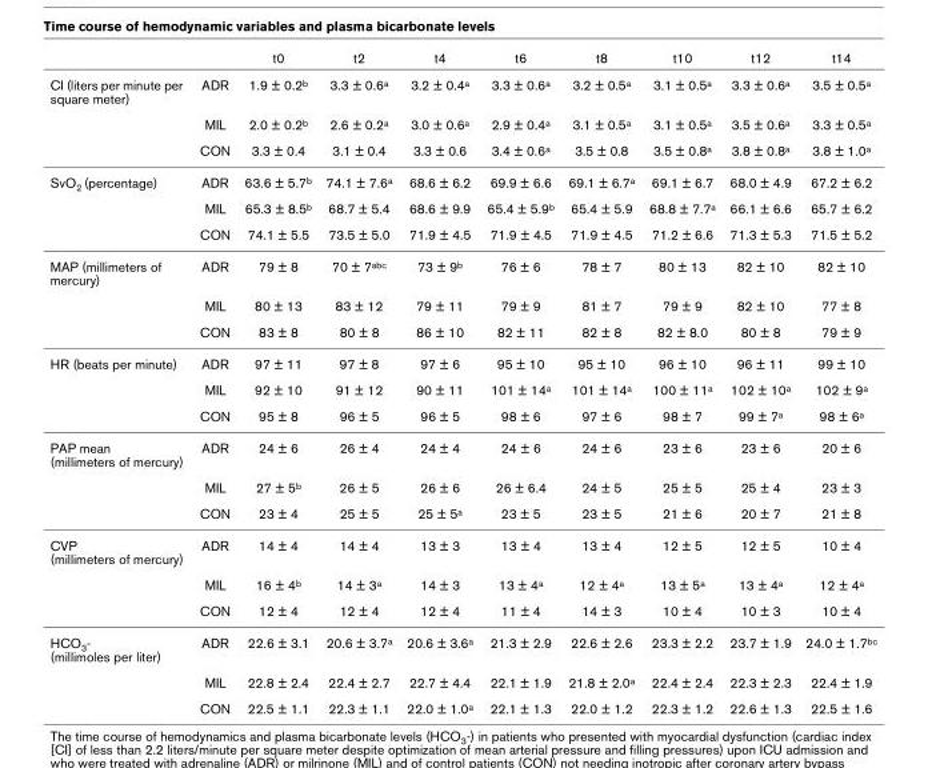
<table><thead><tr><td></td><td></td><td>t0</td><td>t2</td><td>t4</td><td>t6</td><td>t8</td><td>t10</td><td>t12</td><td>t14</td></tr></thead><tbody><tr><td rowspan="3">CI (liters per minute per square meter)</td><td>ADR</td><td>1.9 ± 0.2<sup>b</sup></td><td>3.3 ± 0.6<sup>a</sup></td><td>3.2 ± 0.4<sup>a</sup></td><td>3.3 ± 0.6<sup>a</sup></td><td>3.2 ± 0.5<sup>a</sup></td><td>3.1 ± 0.5<sup>a</sup></td><td>3.3 ± 0.6<sup>a</sup></td><td>3.5 ± 0.5<sup>a</sup></td></tr><tr><td>MIL</td><td>2.0 ± 0.2<sup>b</sup></td><td>2.6 ± 0.2<sup>a</sup></td><td>3.0 ± 0.6<sup>a</sup></td><td>2.9 ± 0.4<sup>a</sup></td><td>3.1 ± 0.5<sup>a</sup></td><td>3.1 ± 0.5<sup>a</sup></td><td>3.5 ± 0.6<sup>a</sup></td><td>3.3 ± 0.5<sup>a</sup></td></tr><tr><td>CON</td><td>3.3 ± 0.4</td><td>3.1 ± 0.4</td><td>3.3 ± 0.6</td><td>3.4 ± 0.6<sup>a</sup></td><td>3.5 ± 0.8</td><td>3.5 ± 0.8<sup>a</sup></td><td>3.8 ± 0.8<sup>a</sup></td><td>3.8 ± 1.0<sup>a</sup></td></tr><tr><td rowspan="3">SvO<sub>2</sub> (percentage)</td><td>ADR</td><td>63.6 ± 5.7<sup>b</sup></td><td>74.1 ± 7.6<sup>a</sup></td><td>68.6 ± 6.2</td><td>69.9 ± 6.6</td><td>69.1 ± 6.7<sup>a</sup></td><td>69.1 ± 6.7</td><td>68.0 ± 4.9</td><td>67.2 ± 6.2</td></tr><tr><td>MIL</td><td>65.3 ± 8.5<sup>b</sup></td><td>68.7 ± 5.4</td><td>68.6 ± 9.9</td><td>65.4 ± 5.9<sup>b</sup></td><td>65.4 ± 5.9</td><td>68.8 ± 7.7<sup>a</sup></td><td>66.1 ± 6.6</td><td>65.7 ± 6.2</td></tr><tr><td>CON</td><td>74.1 ± 5.5</td><td>73.5 ± 5.0</td><td>71.9 ± 4.5</td><td>71.9 ± 4.5</td><td>71.9 ± 4.5</td><td>71.2 ± 6.6</td><td>71.3 ± 5.3</td><td>71.5 ± 5.2</td></tr><tr><td rowspan="3">MAP (millimeters of mercury)</td><td>ADR</td><td>79 ± 8</td><td>70 ± 7<sup>abc</sup></td><td>73 ± 9<sup>b</sup></td><td>76 ± 6</td><td>78 ± 7</td><td>80 ± 13</td><td>82 ± 10</td><td>82 ± 10</td></tr><tr><td>MIL</td><td>80 ± 13</td><td>83 ± 12</td><td>79 ± 11</td><td>79 ± 9</td><td>81 ± 7</td><td>79 ± 9</td><td>82 ± 10</td><td>77 ± 8</td></tr><tr><td>CON</td><td>83 ± 8</td><td>80 ± 8</td><td>86 ± 10</td><td>82 ± 11</td><td>82 ± 8</td><td>82 ± 8.0</td><td>80 ± 8</td><td>79 ± 9</td></tr><tr><td rowspan="3">HR (beats per minute)</td><td>ADR</td><td>97 ± 11</td><td>97 ± 8</td><td>97 ± 6</td><td>95 ± 10</td><td>95 ± 10</td><td>96 ± 10</td><td>96 ± 11</td><td>99 ± 10</td></tr><tr><td>MIL</td><td>92 ± 10</td><td>91 ± 12</td><td>90 ± 11</td><td>101 ± 14<sup>a</sup></td><td>101 ± 14<sup>a</sup></td><td>100 ± 11<sup>a</sup></td><td>102 ± 10<sup>a</sup></td><td>102 ± 9<sup>a</sup></td></tr><tr><td>CON</td><td>95 ± 8</td><td>96 ± 5</td><td>96 ± 5</td><td>98 ± 6</td><td>97 ± 6</td><td>98 ± 7</td><td>99 ± 7<sup>a</sup></td><td>98 ± 6<sup>a</sup></td></tr><tr><td rowspan="3">PAP mean (millimeters of mercury)</td><td>ADR</td><td>24 ± 6</td><td>26 ± 4</td><td>24 ± 4</td><td>24 ± 6</td><td>24 ± 6</td><td>23 ± 6</td><td>23 ± 6</td><td>20 ± 6</td></tr><tr><td>MIL</td><td>27 ± 5<sup>b</sup></td><td>26 ± 5</td><td>26 ± 6</td><td>26 ± 6.4</td><td>24 ± 5</td><td>25 ± 5</td><td>25 ± 4</td><td>23 ± 3</td></tr><tr><td>CON</td><td>23 ± 4</td><td>25 ± 5</td><td>25 ± 5<sup>a</sup></td><td>23 ± 5</td><td>23 ± 5</td><td>21 ± 6</td><td>20 ± 7</td><td>21 ± 8</td></tr><tr><td rowspan="3">CVP (millimeters of mercury)</td><td>ADR</td><td>14 ± 4</td><td>14 ± 4</td><td>13 ± 3</td><td>13 ± 4</td><td>13 ± 4</td><td>12 ± 5</td><td>12 ± 5</td><td>10 ± 4</td></tr><tr><td>MIL</td><td>16 ± 4<sup>b</sup></td><td>14 ± 3<sup>a</sup></td><td>14 ± 3</td><td>13 ± 4<sup>a</sup></td><td>12 ± 4<sup>a</sup></td><td>13 ± 5<sup>a</sup></td><td>13 ± 4<sup>a</sup></td><td>12 ± 4<sup>a</sup></td></tr><tr><td>CON</td><td>12 ± 4</td><td>12 ± 4</td><td>12 ± 4</td><td>11 ± 4</td><td>14 ± 3</td><td>10 ± 4</td><td>10 ± 3</td><td>10 ± 4</td></tr><tr><td rowspan="3">HCO<sub>3</sub>- (millimoles per liter)</td><td>ADR</td><td>22.6 ± 3.1</td><td>20.6 ± 3.7<sup>a</sup></td><td>20.6 ± 3.6<sup>a</sup></td><td>21.3 ± 2.9</td><td>22.6 ± 2.6</td><td>23.3 ± 2.2</td><td>23.7 ± 1.9</td><td>24.0 ± 1.7<sup>bc</sup></td></tr><tr><td>MIL</td><td>22.8 ± 2.4</td><td>22.4 ± 2.7</td><td>22.7 ± 4.4</td><td>22.1 ± 1.9</td><td>21.8 ± 2.0<sup>a</sup></td><td>22.4 ± 2.4</td><td>22.3 ± 2.3</td><td>22.4 ± 1.9</td></tr><tr><td>CON</td><td>22.5 ± 1.1</td><td>22.3 ± 1.1</td><td>22.0 ± 1.0<sup>a</sup></td><td>22.1 ± 1.3</td><td>22.0 ± 1.2</td><td>22.3 ± 1.2</td><td>22.6 ± 1.3</td><td>22.5 ± 1.6</td></tr></tbody></table>